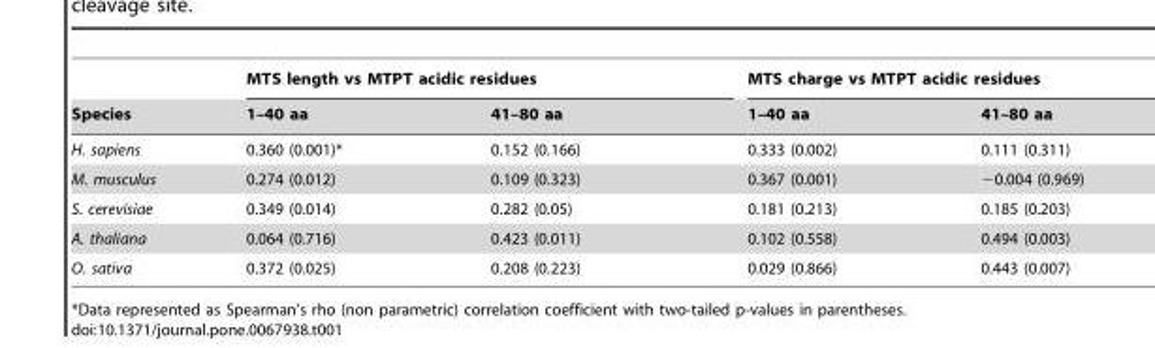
<table><thead><tr><td rowspan="2">Species</td><td colspan="2">MTS length vs MTPT acidic residues</td><td colspan="2">MTS charge vs MTPT acidic residues</td></tr><tr><td>1–40 aa</td><td>41–80 aa</td><td>1–40 aa</td><td>41–80 aa</td></tr></thead><tbody><tr><td>H. sapiens</td><td>0.360 (0.001)*</td><td>0.152 (0.166)</td><td>0.333 (0.002)</td><td>0.111 (0.311)</td></tr><tr><td>M. musculus</td><td>0.274 (0.012)</td><td>0.109 (0.323)</td><td>0.367 (0.001)</td><td>−0.004 (0.969)</td></tr><tr><td>S. cerevisiae</td><td>0.349 (0.014)</td><td>0.282 (0.05)</td><td>0.181 (0.213)</td><td>0.185 (0.203)</td></tr><tr><td>A. thaliana</td><td>0.064 (0.716)</td><td>0.423 (0.011)</td><td>0.102 (0.558)</td><td>0.494 (0.003)</td></tr><tr><td>O. sativa</td><td>0.372 (0.025)</td><td>0.208 (0.223)</td><td>0.029 (0.866)</td><td>0.443 (0.007)</td></tr></tbody></table>